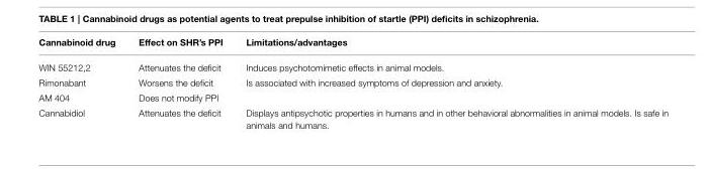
<table><thead><tr><td>Cannabinoid drug</td><td>Effect on SHR’s PPI</td><td>Limitations/advantages</td></tr></thead><tbody><tr><td>WIN 55212,2</td><td>Attenuates the deficit</td><td>Induces psychotomimetic effects in animal models.</td></tr><tr><td>Rimonabant</td><td>Worsens the deficit</td><td>Is associated with increased symptoms of depression and anxiety.</td></tr><tr><td>AM 404</td><td>Does not modify PPI</td><td></td></tr><tr><td>Cannabidiol</td><td>Attenuates the deficit</td><td>Displays antipsychotic properties in humans and in other behavioral abnormalities in animal models. Is safe in animals and humans.</td></tr></tbody></table>